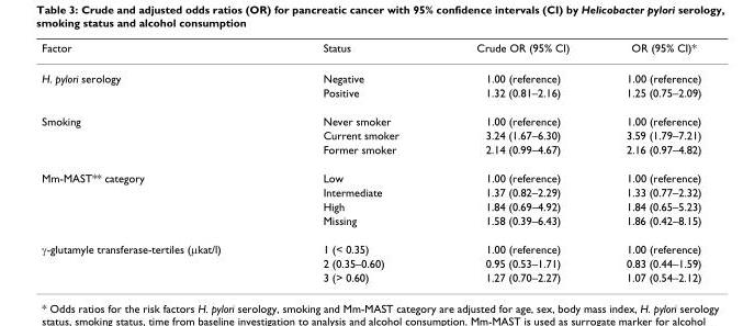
<table><thead><tr><td>Factor</td><td>Status</td><td>Crude OR (95% CI)</td><td>OR (95% CI)*</td></tr></thead><tbody><tr><td rowspan="2">H. pylori serology</td><td>Negative</td><td>1.00 (reference)</td><td>1.00 (reference)</td></tr><tr><td>Positive</td><td>1.32 (0.81–2.16)</td><td>1.25 (0.75–2.09)</td></tr><tr><td rowspan="3">Smoking</td><td>Never smoker</td><td>1.00 (reference)</td><td>1.00 (reference)</td></tr><tr><td>Current smoker</td><td>3.24 (1.67–6.30)</td><td>3.59 (1.79–7.21)</td></tr><tr><td>Former smoker</td><td>2.14 (0.99–4.67)</td><td>2.16 (0.97–4.82)</td></tr><tr><td rowspan="4">Mm-MAST** category</td><td>Low</td><td>1.00 (reference)</td><td>1.00 (reference)</td></tr><tr><td>Intermediate</td><td>1.37 (0.82–2.29)</td><td>1.33 (0.77–2.32)</td></tr><tr><td>High</td><td>1.84 (0.69–4.92)</td><td>1.84 (0.65–5.23)</td></tr><tr><td>Missing</td><td>1.58 (0.39–6.43)</td><td>1.86 (0.42–8.15)</td></tr><tr><td rowspan="3">γ-glutamyle transferase-tertiles (μkat/l)</td><td>1 (&lt; 0.35)</td><td>1.00 (reference)</td><td>1.00 (reference)</td></tr><tr><td>2 (0.35–0.60)</td><td>0.95 (0.53–1.71)</td><td>0.83 (0.44–1.59)</td></tr><tr><td>3 (&gt; 0.60)</td><td>1.27 (0.70–2.27)</td><td>1.07 (0.54–2.12)</td></tr></tbody></table>